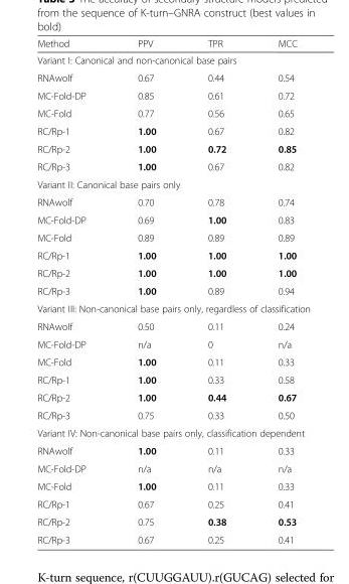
<table><thead><tr><td>Method</td><td>PPV</td><td>TPR</td><td>MCC</td></tr></thead><tbody><tr><td colspan="4">Variant I: Canonical and non-canonical base pairs</td></tr><tr><td>RNAwolf</td><td>0.67</td><td>0.44</td><td>0.54</td></tr><tr><td>MC-Fold-DP</td><td>0.85</td><td>0.61</td><td>0.72</td></tr><tr><td>MC-Fold</td><td>0.77</td><td>0.56</td><td>0.65</td></tr><tr><td>RC/Rp-1</td><td>1.00</td><td>0.67</td><td>0.82</td></tr><tr><td>RC/Rp-2</td><td>1.00</td><td>0.72</td><td>0.85</td></tr><tr><td>RC/Rp-3</td><td>1.00</td><td>0.67</td><td>0.82</td></tr><tr><td colspan="4">Variant II: Canonical base pairs only</td></tr><tr><td>RNAwolf</td><td>0.70</td><td>0.78</td><td>0.74</td></tr><tr><td>MC-Fold-DP</td><td>0.69</td><td>1.00</td><td>0.83</td></tr><tr><td>MC-Fold</td><td>0.89</td><td>0.89</td><td>0.89</td></tr><tr><td>RC/Rp-1</td><td>1.00</td><td>1.00</td><td>1.00</td></tr><tr><td>RC/Rp-2</td><td>1.00</td><td>1.00</td><td>1.00</td></tr><tr><td>RC/Rp-3</td><td>1.00</td><td>0.89</td><td>0.94</td></tr><tr><td colspan="4">Variant III: Non-canonical base pairs only, regardless of classification</td></tr><tr><td>RNAwolf</td><td>0.50</td><td>0.11</td><td>0.24</td></tr><tr><td>MC-Fold-DP</td><td>n/a</td><td>0</td><td>n/a</td></tr><tr><td>MC-Fold</td><td>1.00</td><td>0.11</td><td>0.33</td></tr><tr><td>RC/Rp-1</td><td>1.00</td><td>0.33</td><td>0.58</td></tr><tr><td>RC/Rp-2</td><td>1.00</td><td>0.44</td><td>0.67</td></tr><tr><td>RC/Rp-3</td><td>0.75</td><td>0.33</td><td>0.50</td></tr><tr><td colspan="4">Variant IV: Non-canonical base pairs only, classification dependent</td></tr><tr><td>RNAwolf</td><td>1.00</td><td>0.11</td><td>0.33</td></tr><tr><td>MC-Fold-DP</td><td>n/a</td><td>n/a</td><td>n/a</td></tr><tr><td>MC-Fold</td><td>1.00</td><td>0.11</td><td>0.33</td></tr><tr><td>RC/Rp-1</td><td>0.67</td><td>0.25</td><td>0.41</td></tr><tr><td>RC/Rp-2</td><td>0.75</td><td>0.38</td><td>0.53</td></tr><tr><td>RC/Rp-3</td><td>0.67</td><td>0.25</td><td>0.41</td></tr></tbody></table>